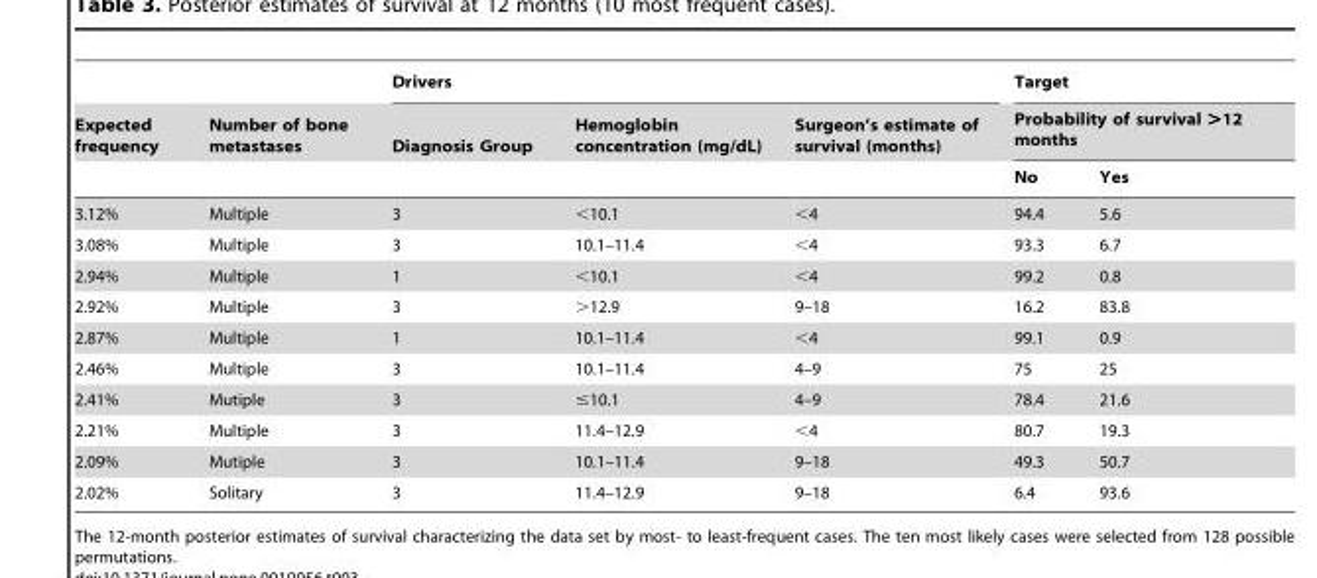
<table><thead><tr><td rowspan="3">Expected frequency</td><td rowspan="3">Number of bone metastases</td><td colspan="3">Drivers</td><td rowspan="2" colspan="2">Target Probability of survival &gt;12 months</td></tr><tr><td rowspan="2">Diagnosis Group</td><td rowspan="2">Hemoglobin concentration (mg/dL)</td><td rowspan="2">Surgeon’s estimate of survival (months)</td></tr><tr><td>No</td><td>Yes</td></tr></thead><tbody><tr><td>3.12%</td><td>Multiple</td><td>3</td><td>&lt;10.1</td><td>&lt;4</td><td>94.4</td><td>5.6</td></tr><tr><td>3.08%</td><td>Multiple</td><td>3</td><td>10.1–11.4</td><td>&lt;4</td><td>93.3</td><td>6.7</td></tr><tr><td>2.94%</td><td>Multiple</td><td>1</td><td>&lt;10.1</td><td>&lt;4</td><td>99.2</td><td>0.8</td></tr><tr><td>2.92%</td><td>Multiple</td><td>3</td><td>&gt;12.9</td><td>9–18</td><td>16.2</td><td>83.8</td></tr><tr><td>2.87%</td><td>Multiple</td><td>1</td><td>10.1–11.4</td><td>&lt;4</td><td>99.1</td><td>0.9</td></tr><tr><td>2.46%</td><td>Multiple</td><td>3</td><td>10.1–11.4</td><td>4–9</td><td>75</td><td>25</td></tr><tr><td>2.41%</td><td>Mutiple</td><td>3</td><td>≤10.1</td><td>4–9</td><td>78.4</td><td>21.6</td></tr><tr><td>2.21%</td><td>Multiple</td><td>3</td><td>11.4–12.9</td><td>&lt;4</td><td>80.7</td><td>19.3</td></tr><tr><td>2.09%</td><td>Mutiple</td><td>3</td><td>10.1–11.4</td><td>9–18</td><td>49.3</td><td>50.7</td></tr><tr><td>2.02%</td><td>Solitary</td><td>3</td><td>11.4–12.9</td><td>9–18</td><td>6.4</td><td>93.6</td></tr></tbody></table>